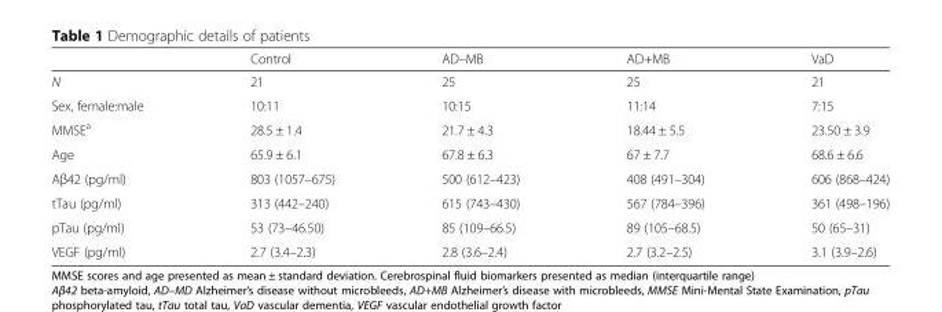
<table><thead><tr><td></td><td>Control</td><td>AD–MB</td><td>AD+MB</td><td>VaD</td></tr></thead><tbody><tr><td>N</td><td>21</td><td>25</td><td>25</td><td>21</td></tr><tr><td>Sex, female:male</td><td>10:11</td><td>10:15</td><td>11:14</td><td>7:15</td></tr><tr><td>MMSE<sup>a</sup></td><td>28.5 ± 1.4</td><td>21.7 ± 4.3</td><td>18.44 ± 5.5</td><td>23.50 ± 3.9</td></tr><tr><td>Age</td><td>65.9 ± 6.1</td><td>67.8 ± 6.3</td><td>67 ± 7.7</td><td>68.6 ± 6.6</td></tr><tr><td>Aβ42 (pg/ml)</td><td>803 (1057–675)</td><td>500 (612–423)</td><td>408 (491–304)</td><td>606 (868–424)</td></tr><tr><td>tTau (pg/ml)</td><td>313 (442–240)</td><td>615 (743–430)</td><td>567 (784–396)</td><td>361 (498–196)</td></tr><tr><td>pTau (pg/ml)</td><td>53 (73–46.50)</td><td>85 (109–66.5)</td><td>89 (105–68.5)</td><td>50 (65–31)</td></tr><tr><td>VEGF (pg/ml)</td><td>2.7 (3.4–2.3)</td><td>2.8 (3.6–2.4)</td><td>2.7 (3.2–2.5)</td><td>3.1 (3.9–2.6)</td></tr></tbody></table>